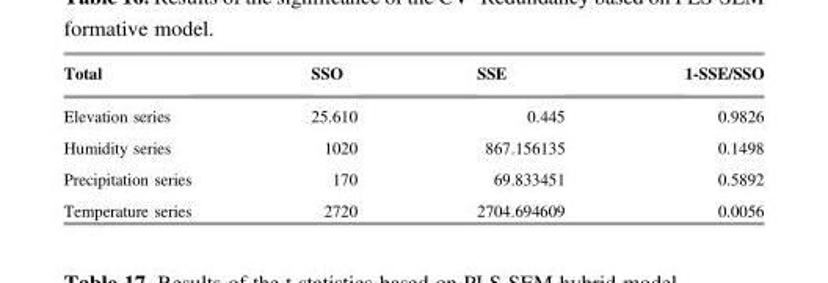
<table><thead><tr><td>Total</td><td>SSO</td><td>SSE</td><td>1-SSE/SSO</td></tr></thead><tbody><tr><td>Elevation series</td><td>25.610</td><td>0.445</td><td>0.9826</td></tr><tr><td>Humidity series</td><td>1020</td><td>867.156135</td><td>0.1498</td></tr><tr><td>Precipitation series</td><td>170</td><td>69.833451</td><td>0.5892</td></tr><tr><td>Temperature series</td><td>2720</td><td>2704.694609</td><td>0.0056</td></tr></tbody></table>